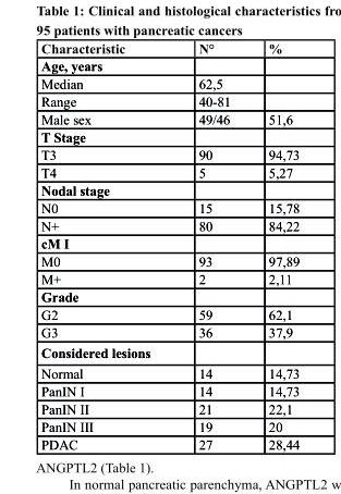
<table><thead><tr><td>characteristic</td><td>N°</td><td>%</td></tr></thead><tbody><tr><td colspan="3">Age, years</td></tr><tr><td>Median</td><td>62,5</td><td></td></tr><tr><td>Range</td><td>40-81</td><td></td></tr><tr><td>Male sex</td><td>49/46</td><td>51,6</td></tr><tr><td colspan="3">t stage</td></tr><tr><td>T3</td><td>90</td><td>94,73</td></tr><tr><td>T4</td><td>5</td><td>5,27</td></tr><tr><td colspan="3">Nodal stage</td></tr><tr><td>N0</td><td>15</td><td>15,78</td></tr><tr><td>N+</td><td>80</td><td>84,22</td></tr><tr><td colspan="3">cM I</td></tr><tr><td>M0</td><td>93</td><td>97,89</td></tr><tr><td>M+</td><td>2</td><td>2,11</td></tr><tr><td colspan="3">Grade</td></tr><tr><td>G2</td><td>59</td><td>62,1</td></tr><tr><td>G3</td><td>36</td><td>37,9</td></tr><tr><td colspan="3">considered lesions</td></tr><tr><td>Normal</td><td>14</td><td>14,73</td></tr><tr><td>PanIN I</td><td>14</td><td>14,73</td></tr><tr><td>PanIN II</td><td>21</td><td>22,1</td></tr><tr><td>PanIN III</td><td>19</td><td>20</td></tr><tr><td>PDAC</td><td>27</td><td>28,44</td></tr></tbody></table>